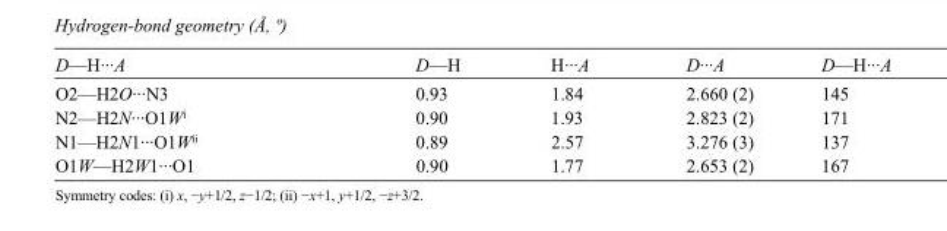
<table><tbody><tr><td>D—H···A</td><td>D—H</td><td>H···A</td><td>D···A</td><td>D—H···A</td></tr><tr><td>O2—H2O···N3</td><td>0.93</td><td>1.84</td><td>2.660 (2)</td><td>145</td></tr><tr><td>N2—H2N···O1W<sup>i</sup></td><td>0.90</td><td>1.93</td><td>2.823 (2)</td><td>171</td></tr><tr><td>N1—H2N1···O1W<sup>ii</sup></td><td>0.89</td><td>2.57</td><td>3.276 (3)</td><td>137</td></tr><tr><td>O1W—H2W1···O1</td><td>0.90</td><td>1.77</td><td>2.653 (2)</td><td>167</td></tr></tbody></table>